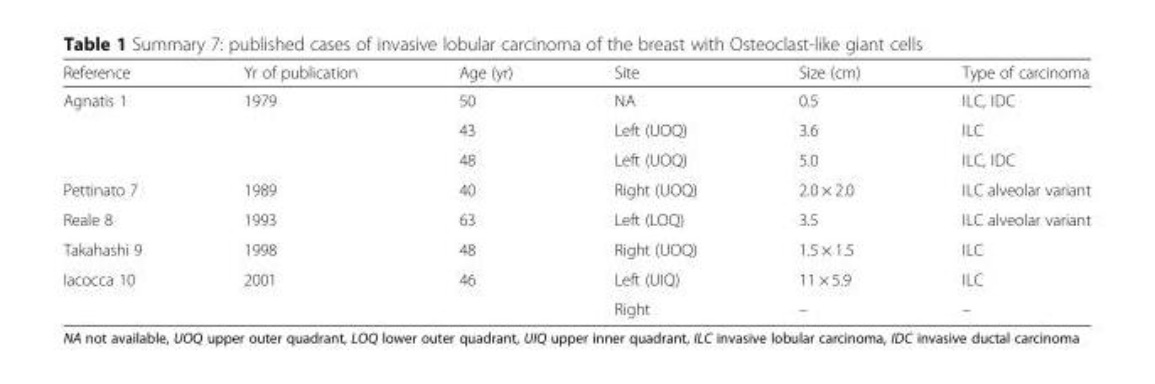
<table><thead><tr><td>Reference</td><td>Yr of publication</td><td>Age (yr)</td><td>Site</td><td>Size (cm)</td><td>Type of carcinoma</td></tr></thead><tbody><tr><td rowspan="3">Agnatis 1</td><td rowspan="3">1979</td><td>50</td><td>NA</td><td>0.5</td><td>ILC, IDC</td></tr><tr><td>43</td><td>Left (UOQ)</td><td>3.6</td><td>ILC</td></tr><tr><td>48</td><td>Left (UOQ)</td><td>5.0</td><td>ILC, IDC</td></tr><tr><td>Pettinato 7</td><td>1989</td><td>40</td><td>Right (UOQ)</td><td>2.0 × 2.0</td><td>ILC alveolar variant</td></tr><tr><td>Reale 8</td><td>1993</td><td>63</td><td>Left (LOQ)</td><td>3.5</td><td>ILC alveolar variant</td></tr><tr><td>Takahashi 9</td><td>1998</td><td>48</td><td>Right (UOQ)</td><td>1.5 × 1.5</td><td>ILC</td></tr><tr><td rowspan="2">Iacocca 10</td><td rowspan="2">2001</td><td rowspan="2">46</td><td>Left (UIQ)</td><td>11 × 5.9</td><td>ILC</td></tr><tr><td>Right</td><td>–</td><td>–</td></tr></tbody></table>